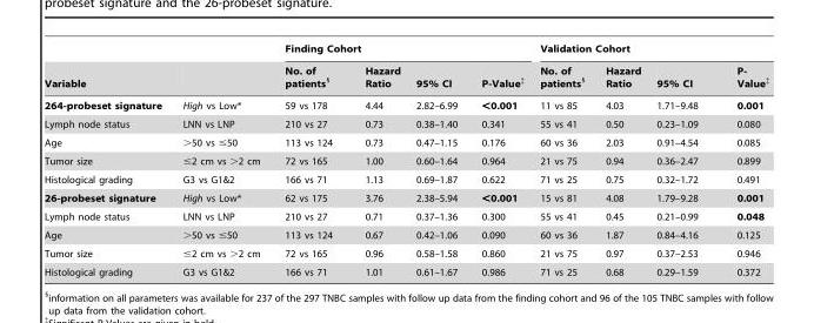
<table><thead><tr><td rowspan="2">Variable</td><td rowspan="2"></td><td colspan="4">Finding Cohort</td><td colspan="4">Validation Cohort</td></tr><tr><td>No. of patients§</td><td>Hazard Ratio</td><td>95% CI</td><td>P-Value‡</td><td>No. of patients§</td><td>Hazard Ratio</td><td>95% CI</td><td>P- Value‡</td></tr></thead><tbody><tr><td>264-probeset signature</td><td>High vs Low*</td><td>59 vs 178</td><td>4.44</td><td>2.82–6.99</td><td>&lt;0.001</td><td>11 vs 85</td><td>4.03</td><td>1.71–9.48</td><td>0.001</td></tr><tr><td>Lymph node status</td><td>LNN vs LNP</td><td>210 vs 27</td><td>0.73</td><td>0.38–1.40</td><td>0.341</td><td>55 vs 41</td><td>0.50</td><td>0.23–1.09</td><td>0.080</td></tr><tr><td>Age</td><td>&gt;50 vs ≤50</td><td>113 vs 124</td><td>0.73</td><td>0.47–1.15</td><td>0.176</td><td>60 vs 36</td><td>2.03</td><td>0.91–4.54</td><td>0.085</td></tr><tr><td>Tumor size</td><td>≤2 cm vs &gt;2 cm</td><td>72 vs 165</td><td>1.00</td><td>0.60–1.64</td><td>0.964</td><td>21 vs 75</td><td>0.94</td><td>0.36–2.47</td><td>0.899</td></tr><tr><td>Histological grading</td><td>G3 vs G1&amp;2</td><td>166 vs 71</td><td>1.13</td><td>0.69–1.87</td><td>0.622</td><td>71 vs 25</td><td>0.75</td><td>0.32–1.72</td><td>0.491</td></tr><tr><td>26-probeset signature</td><td>High vs Low*</td><td>62 vs 175</td><td>3.76</td><td>2.38–5.94</td><td>&lt;0.001</td><td>15 vs 81</td><td>4.08</td><td>1.79–9.28</td><td>0.001</td></tr><tr><td>Lymph node status</td><td>LNN vs LNP</td><td>210 vs 27</td><td>0.71</td><td>0.37–1.36</td><td>0.300</td><td>55 vs 41</td><td>0.45</td><td>0.21–0.99</td><td>0.048</td></tr><tr><td>Age</td><td>&gt;50 vs ≤50</td><td>113 vs 124</td><td>0.67</td><td>0.42–1.06</td><td>0.090</td><td>60 vs 36</td><td>1.87</td><td>0.84–4.16</td><td>0.125</td></tr><tr><td>Tumor size</td><td>≤2 cm vs &gt;2 cm</td><td>72 vs 165</td><td>0.96</td><td>0.58–1.58</td><td>0.860</td><td>21 vs 75</td><td>0.97</td><td>0.37–2.53</td><td>0.946</td></tr><tr><td>Histological grading</td><td>G3 vs G1&amp;2</td><td>166 vs 71</td><td>1.01</td><td>0.61–1.67</td><td>0.986</td><td>71 vs 25</td><td>0.68</td><td>0.29–1.59</td><td>0.372</td></tr></tbody></table>